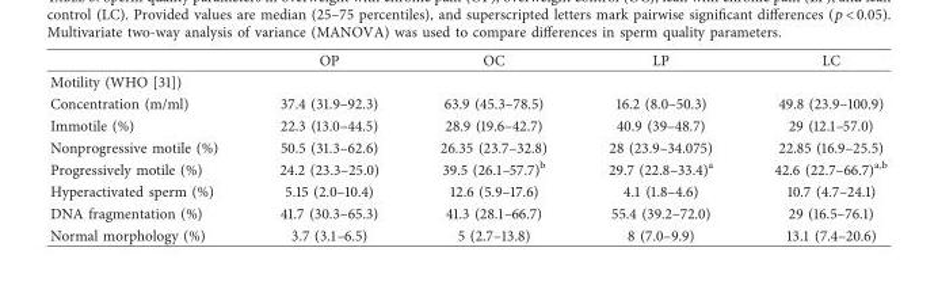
<table><thead><tr><td></td><td>OP</td><td>OC</td><td>LP</td><td>LC</td></tr></thead><tbody><tr><td colspan="5">Motility (WHO [31])</td></tr><tr><td>Concentration (m/ml)</td><td>37.4 (31.9–92.3)</td><td>63.9 (45.3–78.5)</td><td>16.2 (8.0–50.3)</td><td>49.8 (23.9–100.9)</td></tr><tr><td>Immotile (%)</td><td>22.3 (13.0–44.5)</td><td>28.9 (19.6–42.7)</td><td>40.9 (39–48.7)</td><td>29 (12.1–57.0)</td></tr><tr><td>Nonprogressive motile (%)</td><td>50.5 (31.3–62.6)</td><td>26.35 (23.7–32.8)</td><td>28 (23.9–34.075)</td><td>22.85 (16.9–25.5)</td></tr><tr><td>Progressively motile (%)</td><td>24.2 (23.3–25.0)</td><td>39.5 (26.1–57.7)<sup>b</sup></td><td>29.7 (22.8–33.4)<sup>a</sup></td><td>42.6 (22.7–66.7)<sup>a,b</sup></td></tr><tr><td>Hyperactivated sperm (%)</td><td>5.15 (2.0–10.4)</td><td>12.6 (5.9–17.6)</td><td>4.1 (1.8–4.6)</td><td>10.7 (4.7–24.1)</td></tr><tr><td>DNA fragmentation (%)</td><td>41.7 (30.3–65.3)</td><td>41.3 (28.1–66.7)</td><td>55.4 (39.2–72.0)</td><td>29 (16.5–76.1)</td></tr><tr><td>Normal morphology (%)</td><td>3.7 (3.1–6.5)</td><td>5 (2.7–13.8)</td><td>8 (7.0–9.9)</td><td>13.1 (7.4–20.6)</td></tr></tbody></table>